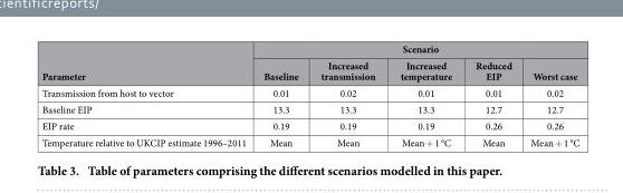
<table><thead><tr><td rowspan="2">Parameter</td><td colspan="5">Scenario</td></tr><tr><td>Baseline</td><td>Increased transmission</td><td>Increased temperature</td><td>Reduced EIP</td><td>Worst case</td></tr></thead><tbody><tr><td>Transmission from host to vector</td><td>0.01</td><td>0.02</td><td>0.01</td><td>0.01</td><td>0.02</td></tr><tr><td>Baseline EIP</td><td>13.3</td><td>13.3</td><td>13.3</td><td>12.7</td><td>12.7</td></tr><tr><td>EIP rate</td><td>0.19</td><td>0.19</td><td>0.19</td><td>0.26</td><td>0.26</td></tr><tr><td>Temperature relative to UKCIP estimate 1996–2011</td><td>Mean</td><td>Mean</td><td>Mean + 1 °C</td><td>Mean</td><td>Mean + 1 °C</td></tr></tbody></table>